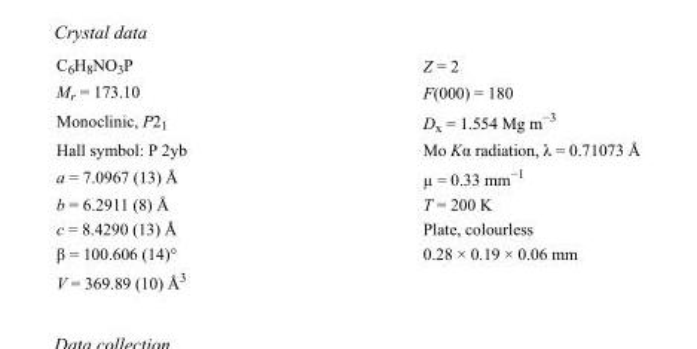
<table><tbody><tr><td>C<sub>6</sub>H<sub>8</sub>NO<sub>3</sub>P</td><td>Z = 2</td></tr><tr><td>M<sub>r</sub> = 173.10</td><td>F(000) = 180</td></tr><tr><td>Monoclinic, P2<sub>1</sub></td><td>D<sub>x</sub> = 1.554 Mg m<sup>−3</sup></td></tr><tr><td>Hall symbol: P 2yb</td><td>Mo Kα radiation, λ = 0.71073 Å</td></tr><tr><td>a = 7.0967 (13) Å</td><td>µ = 0.33 mm<sup>−1</sup></td></tr><tr><td>b = 6.2911 (8) Å</td><td>T = 200 K</td></tr><tr><td>c = 8.4290 (13) Å</td><td>Plate, colourless</td></tr><tr><td>β = 100.606 (14)°</td><td>0.28 × 0.19 × 0.06 mm</td></tr><tr><td>V = 369.89 (10) Å<sup>3</sup></td><td></td></tr></tbody></table>